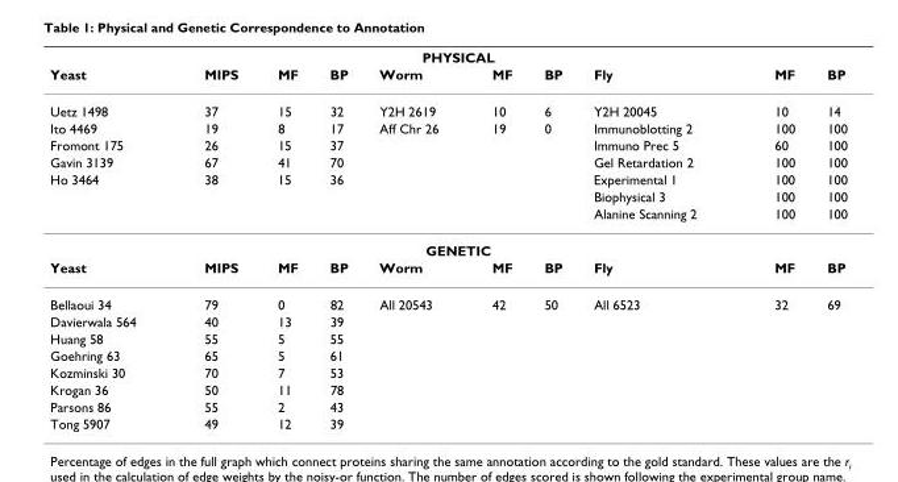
<table><thead><tr><td colspan="10">PHYSICAL</td></tr><tr><td>Yeast</td><td>MIPS</td><td>MF</td><td>BP</td><td>Worm</td><td>MF</td><td>BP</td><td>Fly</td><td>MF</td><td>BP</td></tr></thead><tbody><tr><td>Uetz 1498</td><td>37</td><td>15</td><td>32</td><td>Y2H 2619</td><td>10</td><td>6</td><td>Y2H 20045</td><td>10</td><td>14</td></tr><tr><td>Ito 4469</td><td>19</td><td>8</td><td>17</td><td>Aff Chr 26</td><td>19</td><td>0</td><td>Immunoblotting 2</td><td>100</td><td>100</td></tr><tr><td>Fromont 175</td><td>26</td><td>15</td><td>37</td><td></td><td></td><td></td><td>Immuno Prec 5</td><td>60</td><td>100</td></tr><tr><td>Gavin 3139</td><td>67</td><td>41</td><td>70</td><td></td><td></td><td></td><td>Gel Retardation 2</td><td>100</td><td>100</td></tr><tr><td rowspan="3">Ho 3464</td><td>38</td><td>15</td><td>36</td><td></td><td></td><td></td><td>Experimental 1</td><td>100</td><td>100</td></tr><tr><td></td><td></td><td></td><td></td><td></td><td></td><td>Biophysical 3</td><td>100</td><td>100</td></tr><tr><td></td><td></td><td></td><td></td><td></td><td></td><td>Alanine Scanning 2</td><td>100</td><td>100</td></tr><tr><td colspan="10">GENETIC</td></tr><tr><td>Yeast</td><td>MIPS</td><td>MF</td><td>BP</td><td>Worm</td><td>MF</td><td>BP</td><td>Fly</td><td>MF</td><td>BP</td></tr><tr><td>Bellaoui 34</td><td>79</td><td>0</td><td>82</td><td>All 20543</td><td>42</td><td>50</td><td>All 6523</td><td>32</td><td>69</td></tr><tr><td>Davierwala 564</td><td>40</td><td>13</td><td>39</td><td></td><td></td><td></td><td></td><td></td><td></td></tr><tr><td>Huang 58</td><td>55</td><td>5</td><td>55</td><td></td><td></td><td></td><td></td><td></td><td></td></tr><tr><td>Goehring 63</td><td>65</td><td>5</td><td>61</td><td></td><td></td><td></td><td></td><td></td><td></td></tr><tr><td>Kozminski 30</td><td>70</td><td>7</td><td>53</td><td></td><td></td><td></td><td></td><td></td><td></td></tr><tr><td>Krogan 36</td><td>50</td><td>11</td><td>78</td><td></td><td></td><td></td><td></td><td></td><td></td></tr><tr><td>Parsons 86</td><td>55</td><td>2</td><td>43</td><td></td><td></td><td></td><td></td><td></td><td></td></tr><tr><td>Tong 5907</td><td>49</td><td>12</td><td>39</td><td></td><td></td><td></td><td></td><td></td><td></td></tr></tbody></table>